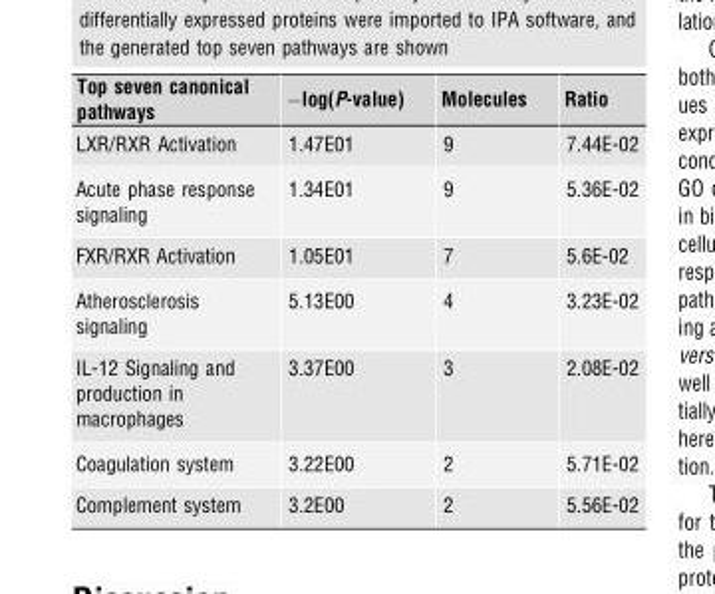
<table><thead><tr><td>Top seven canonical pathways</td><td>−log(P-value)</td><td>Molecules</td><td>Ratio</td></tr></thead><tbody><tr><td>LXR/RXR Activation</td><td>1.47E01</td><td>9</td><td>7.44E-02</td></tr><tr><td>Acute phase response signaling</td><td>1.34E01</td><td>9</td><td>5.36E-02</td></tr><tr><td>FXR/RXR Activation</td><td>1.05E01</td><td>7</td><td>5.6E-02</td></tr><tr><td>Atherosclerosis signaling</td><td>5.13E00</td><td>4</td><td>3.23E-02</td></tr><tr><td>IL-12 Signaling and production in macrophages</td><td>3.37E00</td><td>3</td><td>2.08E-02</td></tr><tr><td>Coagulation system</td><td>3.22E00</td><td>2</td><td>5.71E-02</td></tr><tr><td>Complement system</td><td>3.2E00</td><td>2</td><td>5.56E-02</td></tr></tbody></table>